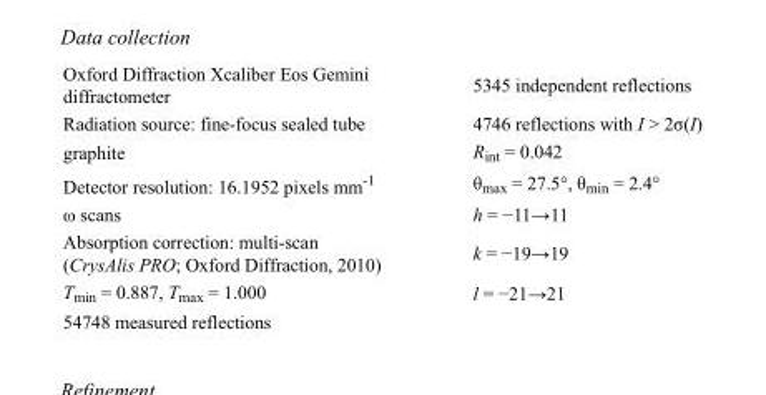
<table><tbody><tr><td>Oxford Diffraction Xcaliber Eos Gemini diffractometer</td><td>5345 independent reflections</td></tr><tr><td>Radiation source: fine-focus sealed tube</td><td>4746 reflections with I &gt; 2σ(I)</td></tr><tr><td>graphite</td><td>R<sub>int</sub> = 0.042</td></tr><tr><td>Detector resolution: 16.1952 pixels mm<sup>-1</sup></td><td>θ<sub>max</sub> = 27.5°, θ<sub>min</sub> = 2.4°</td></tr><tr><td>ω scans</td><td>h = −11→11</td></tr><tr><td>Absorption correction: multi-scan (CrysAlis PRO; Oxford Diffraction, 2010)</td><td>k = −19→19</td></tr><tr><td>T<sub>min</sub> = 0.887, T<sub>max</sub> = 1.000</td><td>l = −21→21</td></tr><tr><td>54748 measured reflections</td><td></td></tr></tbody></table>